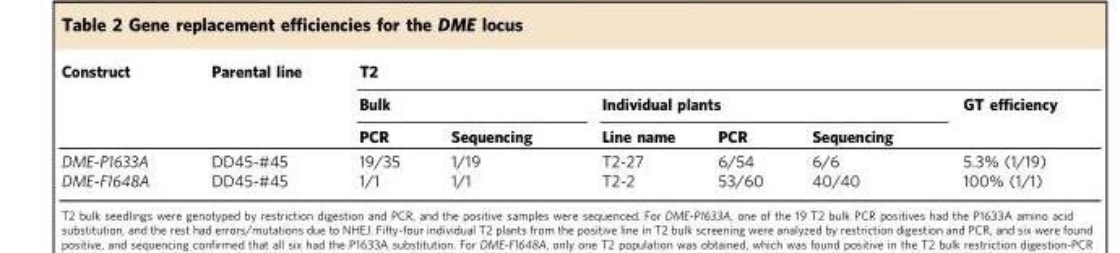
<table><thead><tr><td rowspan="3">Construct</td><td rowspan="3">Parental line</td><td colspan="6">T2</td></tr><tr><td colspan="2">Bulk</td><td colspan="3">Individual plants</td><td rowspan="2">GT efficiency</td></tr><tr><td>PCR</td><td>Sequencing</td><td>Line name</td><td>PCR</td><td>Sequencing</td></tr></thead><tbody><tr><td>DME-P1633A</td><td>DD45-#45</td><td>19/35</td><td>1/19</td><td>T2-27</td><td>6/54</td><td>6/6</td><td>5.3% (1/19)</td></tr><tr><td>DME-F1648A</td><td>DD45-#45</td><td>1/1</td><td>1/1</td><td>T2-2</td><td>53/60</td><td>40/40</td><td>100% (1/1)</td></tr></tbody></table>